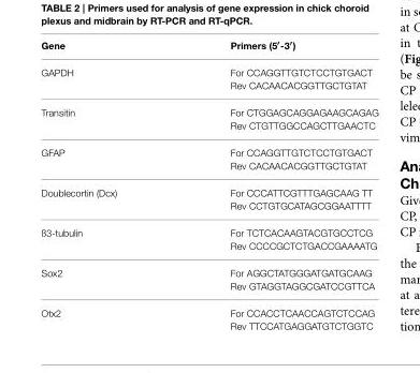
<table><thead><tr><td>Gene</td><td>Primers (5′-3′)</td></tr></thead><tbody><tr><td>GAPDH</td><td>For CCAGGTTGTCTCCTGTGACT Rev CACAACACGGTTGCTGTAT</td></tr><tr><td>Transitin</td><td>For CTGGAGCAGGAGAAGCAGAG Rev CTGTTGGCCAGCTTGAACTC</td></tr><tr><td>GFAP</td><td>For CCAGGTTGTCTCCTGTGACT Rev CACAACACGGTTGCTGTAT</td></tr><tr><td>Doublecortin (Dcx)</td><td>For CCCATTCGTTTGAGCAAG TT Rev CCTGTGCATAGCGGAATTTT</td></tr><tr><td>ß3-tubulin</td><td>For TCTCACAAGTACGTGCCTCG Rev CCCCGCTCTGACCGAAAATG</td></tr><tr><td>Sox2</td><td>For AGGCTATGGGATGATGCAAG Rev GTAGGTAGGCGATCCGTTCA</td></tr><tr><td>Otx2</td><td>For CCACCTCAACCAGTCTCCAG Rev TTCCATGAGGATGTCTGGTC</td></tr></tbody></table>